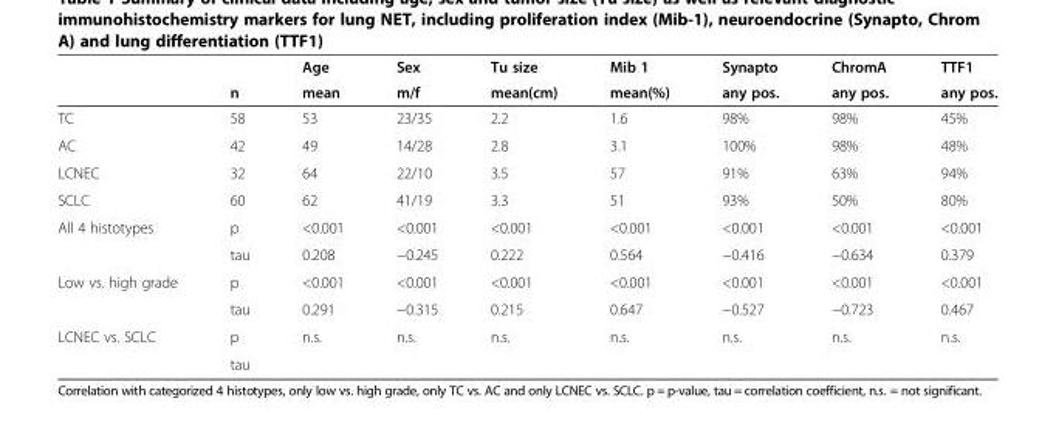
<table><thead><tr><td rowspan="2"></td><td rowspan="2">n</td><td rowspan="2">Age mean</td><td rowspan="2">Sex m/f</td><td rowspan="2">Tu size mean(cm)</td><td rowspan="2">Mib 1 mean(%)</td><td rowspan="2">Synapto any pos.</td><td rowspan="2">ChromA any pos.</td><td rowspan="2">TTF1 any pos.</td></tr><tr></tr></thead><tbody><tr><td>TC</td><td>58</td><td>53</td><td>23/35</td><td>2.2</td><td>1.6</td><td>98%</td><td>98%</td><td>45%</td></tr><tr><td>AC</td><td>42</td><td>49</td><td>14/28</td><td>2.8</td><td>3.1</td><td>100%</td><td>98%</td><td>48%</td></tr><tr><td>LCNEC</td><td>32</td><td>64</td><td>22/10</td><td>3.5</td><td>57</td><td>91%</td><td>63%</td><td>94%</td></tr><tr><td>SCLC</td><td>60</td><td>62</td><td>41/19</td><td>3.3</td><td>51</td><td>93%</td><td>50%</td><td>80%</td></tr><tr><td rowspan="2">All 4 histotypes</td><td>p</td><td>&lt;0.001</td><td>&lt;0.001</td><td>&lt;0.001</td><td>&lt;0.001</td><td>&lt;0.001</td><td>&lt;0.001</td><td>&lt;0.001</td></tr><tr><td>tau</td><td>0.208</td><td>−0.245</td><td>0.222</td><td>0.564</td><td>−0.416</td><td>−0.634</td><td>0.379</td></tr><tr><td rowspan="2">Low vs. high grade</td><td>p</td><td>&lt;0.001</td><td>&lt;0.001</td><td>&lt;0.001</td><td>&lt;0.001</td><td>&lt;0.001</td><td>&lt;0.001</td><td>&lt;0.001</td></tr><tr><td>tau</td><td>0.291</td><td>−0.315</td><td>0.215</td><td>0.647</td><td>−0.527</td><td>−0.723</td><td>0.467</td></tr><tr><td rowspan="2">LCNEC vs. SCLC</td><td>p</td><td>n.s.</td><td>n.s.</td><td>n.s.</td><td>n.s.</td><td>n.s.</td><td>n.s.</td><td>n.s.</td></tr><tr><td>tau</td><td></td><td></td><td></td><td></td><td></td><td></td><td></td></tr></tbody></table>